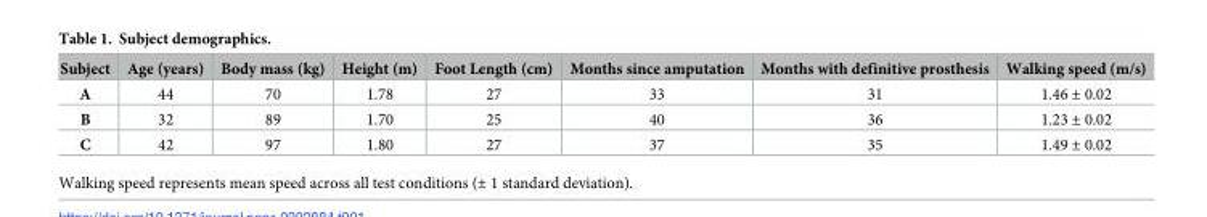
<table><thead><tr><td>Subject</td><td>Age (years)</td><td>Body mass (kg)</td><td>Height (m)</td><td>Foot Length (cm)</td><td>Months since amputation</td><td>Months with definitive prosthesis</td><td>Walking speed (m/s)</td></tr></thead><tbody><tr><td>A</td><td>44</td><td>70</td><td>1.78</td><td>27</td><td>33</td><td>31</td><td>1.46 ± 0.02</td></tr><tr><td>B</td><td>32</td><td>89</td><td>1.70</td><td>25</td><td>40</td><td>36</td><td>1.23 ± 0.02</td></tr><tr><td>C</td><td>42</td><td>97</td><td>1.80</td><td>27</td><td>37</td><td>35</td><td>1.49 ± 0.02</td></tr></tbody></table>